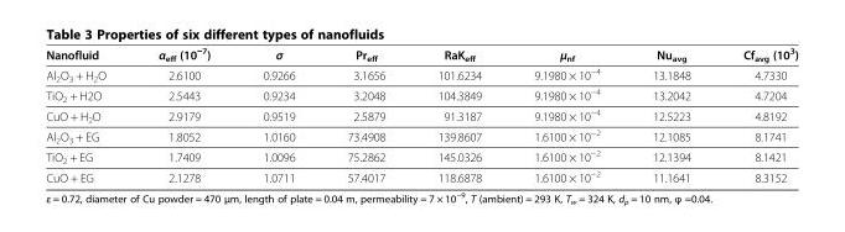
<table><thead><tr><td>Nanofluid</td><td>α<sub>eff</sub> (10<sup>−7</sup>)</td><td>σ</td><td>Pr<sub>eff</sub></td><td>RaK<sub>eff</sub></td><td>μ<sub>nf</sub></td><td>Nu<sub>avg</sub></td><td>Cf<sub>avg</sub> (10<sup>3</sup>)</td></tr></thead><tbody><tr><td>Al<sub>2</sub>O<sub>3</sub> + H<sub>2</sub>O</td><td>2.6100</td><td>0.9266</td><td>3.1656</td><td>101.6234</td><td>9.1980 × 10<sup>−4</sup></td><td>13.1848</td><td>4.7330</td></tr><tr><td>TiO<sub>2</sub> + H2O</td><td>2.5443</td><td>0.9234</td><td>3.2048</td><td>104.3849</td><td>9.1980 × 10<sup>−4</sup></td><td>13.2042</td><td>4.7204</td></tr><tr><td>CuO + H<sub>2</sub>O</td><td>2.9179</td><td>0.9519</td><td>2.5879</td><td>91.3187</td><td>9.1980 × 10<sup>−4</sup></td><td>12.5223</td><td>4.8192</td></tr><tr><td>Al<sub>2</sub>O<sub>3</sub> + EG</td><td>1.8052</td><td>1.0160</td><td>73.4908</td><td>139.8607</td><td>1.6100 × 10<sup>−2</sup></td><td>12.1085</td><td>8.1741</td></tr><tr><td>TiO<sub>2</sub> + EG</td><td>1.7409</td><td>1.0096</td><td>75.2862</td><td>145.0326</td><td>1.6100 × 10<sup>−2</sup></td><td>12.1394</td><td>8.1421</td></tr><tr><td>CuO + EG</td><td>2.1278</td><td>1.0711</td><td>57.4017</td><td>118.6878</td><td>1.6100 × 10<sup>−2</sup></td><td>11.1641</td><td>8.3152</td></tr></tbody></table>